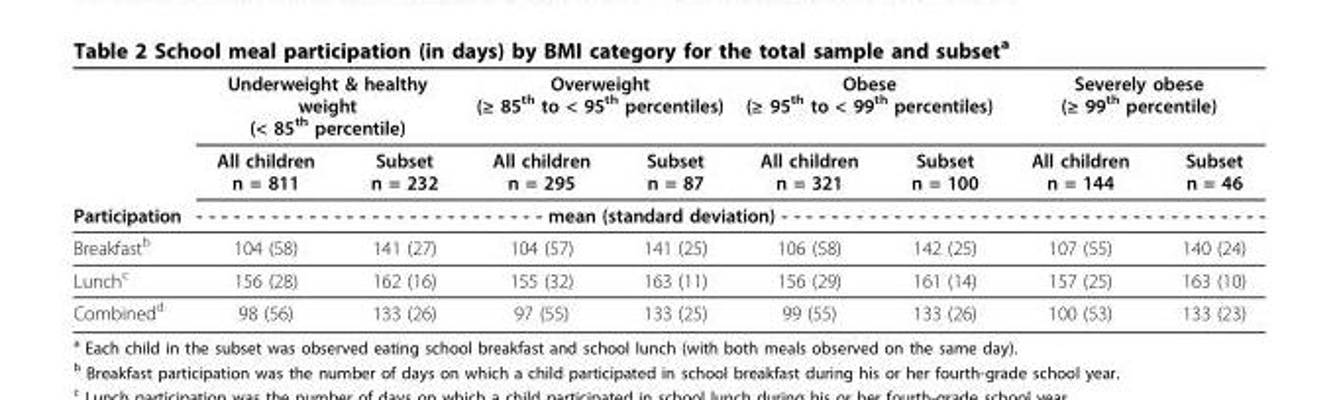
<table><thead><tr><td rowspan="3">Participation</td><td colspan="2">Underweight &amp; healthy weight (&lt; 85<sup>th</sup> percentile)</td><td colspan="2">Overweight (≥ 85<sup>th</sup> to &lt; 95<sup>th</sup> percentiles)</td><td colspan="2">Obese (≥ 95<sup>th</sup> to &lt; 99<sup>th</sup> percentiles)</td><td colspan="2">Severely obese (≥ 99<sup>th</sup> percentile)</td></tr><tr><td>All children n = 811</td><td>Subset n = 232</td><td>All children n = 295</td><td>Subset n = 87</td><td>All children n = 321</td><td>Subset n = 100</td><td>All children n = 144</td><td>Subset n = 46</td></tr><tr><td colspan="8">- - - - - - - - - - - - - - - - - - - - - - - - - - - - mean (standard deviation) - - - - - - - - - - - - - - - - - - - - - - - - - - - - - - - - - - - - - - -</td></tr></thead><tbody><tr><td>Breakfast<sup>b</sup></td><td>104 (58)</td><td>141 (27)</td><td>104 (57)</td><td>141 (25)</td><td>106 (58)</td><td>142 (25)</td><td>107 (55)</td><td>140 (24)</td></tr><tr><td>Lunch<sup>c</sup></td><td>156 (28)</td><td>162 (16)</td><td>155 (32)</td><td>163 (11)</td><td>156 (29)</td><td>161 (14)</td><td>157 (25)</td><td>163 (10)</td></tr><tr><td>Combined<sup>d</sup></td><td>98 (56)</td><td>133 (26)</td><td>97 (55)</td><td>133 (25)</td><td>99 (55)</td><td>133 (26)</td><td>100 (53)</td><td>133 (23)</td></tr></tbody></table>